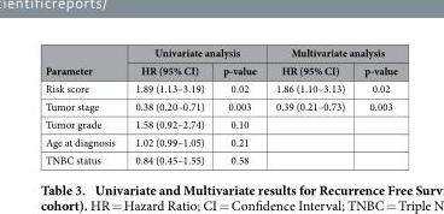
<table><thead><tr><td rowspan="2">Parameter</td><td colspan="2">Univariate analysis</td><td colspan="2">Multivariate analysis</td></tr><tr><td>HR (95% CI)</td><td>p-value</td><td>HR (95% CI)</td><td>p-value</td></tr></thead><tbody><tr><td>Risk score</td><td>1.89 (1.13–3.19)</td><td>0.02</td><td>1.86 (1.10–3.13)</td><td>0.02</td></tr><tr><td>Tumor stage</td><td>0.38 (0.20–0.71)</td><td>0.003</td><td>0.39 (0.21–0.73)</td><td>0.003</td></tr><tr><td>Tumor grade</td><td>1.58 (0.92–2.74)</td><td>0.10</td><td></td><td></td></tr><tr><td>Age at diagnosis</td><td>1.02 (0.99–1.05)</td><td>0.21</td><td></td><td></td></tr><tr><td>TNBC status</td><td>0.84 (0.45–1.55)</td><td>0.58</td><td></td><td></td></tr></tbody></table>